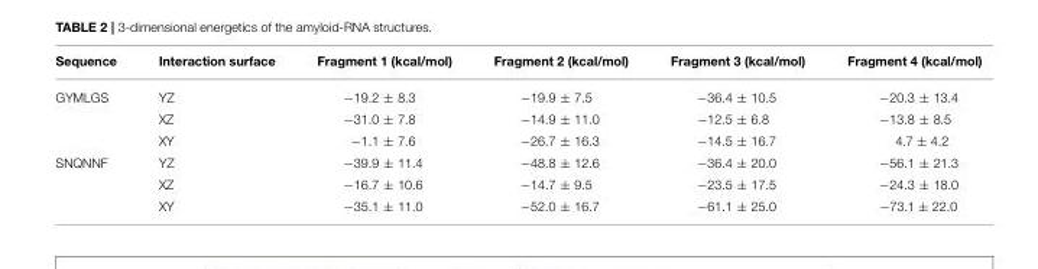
<table><thead><tr><td>Sequence</td><td>Interaction surface</td><td>Fragment 1 (kcal/mol)</td><td>Fragment 2 (kcal/mol)</td><td>Fragment 3 (kcal/mol)</td><td>Fragment 4 (kcal/mol)</td></tr></thead><tbody><tr><td rowspan="3">GYMLGS</td><td>YZ</td><td>−19.2 ± 8.3</td><td>−19.9 ± 7.5</td><td>−36.4 ± 10.5</td><td>−20.3 ± 13.4</td></tr><tr><td>XZ</td><td>−31.0 ± 7.8</td><td>−14.9 ± 11.0</td><td>−12.5 ± 6.8</td><td>−13.8 ± 8.5</td></tr><tr><td>XY</td><td>−1.1 ± 7.6</td><td>−26.7 ± 16.3</td><td>−14.5 ± 16.7</td><td>4.7 ± 4.2</td></tr><tr><td rowspan="3">SNQNNF</td><td>YZ</td><td>−39.9 ± 11.4</td><td>−48.8 ± 12.6</td><td>−36.4 ± 20.0</td><td>−56.1 ± 21.3</td></tr><tr><td>XZ</td><td>−16.7 ± 10.6</td><td>−14.7 ± 9.5</td><td>−23.5 ± 17.5</td><td>−24.3 ± 18.0</td></tr><tr><td>XY</td><td>−35.1 ± 11.0</td><td>−52.0 ± 16.7</td><td>−61.1 ± 25.0</td><td>−73.1 ± 22.0</td></tr></tbody></table>